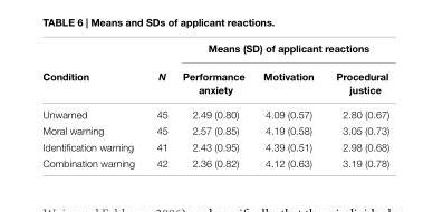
<table><thead><tr><td rowspan="2">Condition</td><td rowspan="2">N</td><td colspan="3">Means (SD) of applicant reactions</td></tr><tr><td>Performance anxiety</td><td>Motivation</td><td>Procedural justice</td></tr></thead><tbody><tr><td>Unwarned</td><td>45</td><td>2.49 (0.80)</td><td>4.09 (0.57)</td><td>2.80 (0.67)</td></tr><tr><td>Moral warning</td><td>45</td><td>2.57 (0.85)</td><td>4.19 (0.58)</td><td>3.05 (0.73)</td></tr><tr><td>Identification warning</td><td>41</td><td>2.43 (0.95)</td><td>4.39 (0.51)</td><td>2.98 (0.68)</td></tr><tr><td>Combination warning</td><td>42</td><td>2.36 (0.82)</td><td>4.12 (0.63)</td><td>3.19 (0.78)</td></tr></tbody></table>